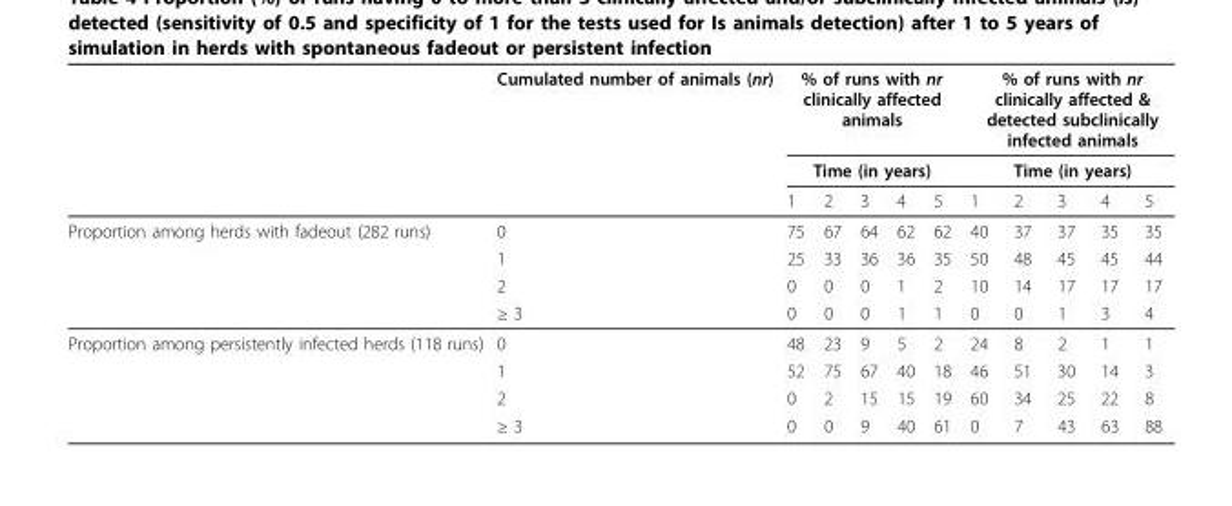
<table><thead><tr><td rowspan="3"></td><td rowspan="3">Cumulated number of animals (nr)</td><td rowspan="2" colspan="5">% of runs with nr clinically affected animals Time (in years)</td><td rowspan="2" colspan="5">% of runs with nr clinically affected &amp; detected subclinically infected animals Time (in years)</td></tr><tr></tr><tr><td>1</td><td>2</td><td>3</td><td>4</td><td>5</td><td>1</td><td>2</td><td>3</td><td>4</td><td>5</td></tr></thead><tbody><tr><td rowspan="4">Proportion among herds with fadeout (282 runs)</td><td>0</td><td>75</td><td>67</td><td>64</td><td>62</td><td>62</td><td>40</td><td>37</td><td>37</td><td>35</td><td>35</td></tr><tr><td>1</td><td>25</td><td>33</td><td>36</td><td>36</td><td>35</td><td>50</td><td>48</td><td>45</td><td>45</td><td>44</td></tr><tr><td>2</td><td>0</td><td>0</td><td>0</td><td>1</td><td>2</td><td>10</td><td>14</td><td>17</td><td>17</td><td>17</td></tr><tr><td>≥ 3</td><td>0</td><td>0</td><td>0</td><td>1</td><td>1</td><td>0</td><td>0</td><td>1</td><td>3</td><td>4</td></tr><tr><td rowspan="4">Proportion among persistently infected herds (118 runs)</td><td>0</td><td>48</td><td>23</td><td>9</td><td>5</td><td>2</td><td>24</td><td>8</td><td>2</td><td>1</td><td>1</td></tr><tr><td>1</td><td>52</td><td>75</td><td>67</td><td>40</td><td>18</td><td>46</td><td>51</td><td>30</td><td>14</td><td>3</td></tr><tr><td>2</td><td>0</td><td>2</td><td>15</td><td>15</td><td>19</td><td>60</td><td>34</td><td>25</td><td>22</td><td>8</td></tr><tr><td>≥ 3</td><td>0</td><td>0</td><td>9</td><td>40</td><td>61</td><td>0</td><td>7</td><td>43</td><td>63</td><td>88</td></tr></tbody></table>